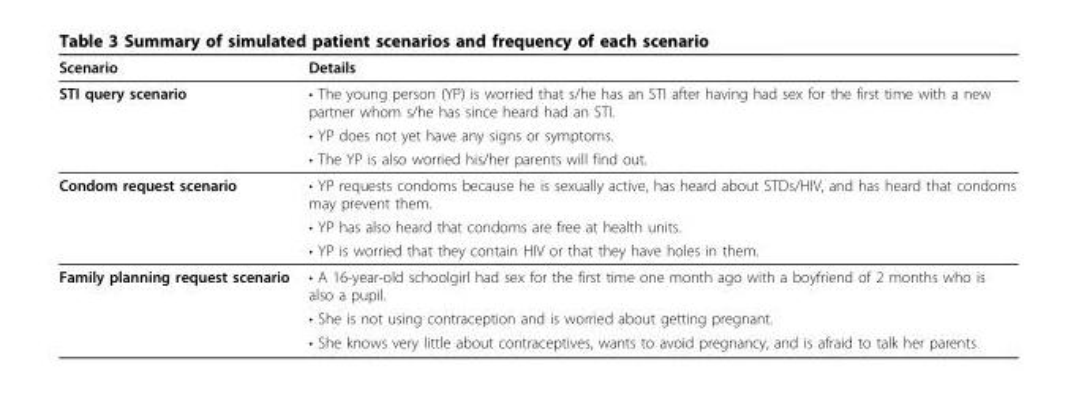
<table><thead><tr><td>Scenario</td><td>Details</td></tr></thead><tbody><tr><td rowspan="3">STI query scenario</td><td>• The young person (YP) is worried that s/he has an STI after having had sex for the first time with a new partner whom s/he has since heard had an STI.</td></tr><tr><td>• YP does not yet have any signs or symptoms.</td></tr><tr><td>• The YP is also worried his/her parents will find out.</td></tr><tr><td rowspan="3">Condom request scenario</td><td>• YP requests condoms because he is sexually active, has heard about STDs/HIV, and has heard that condoms may prevent them.</td></tr><tr><td>• YP has also heard that condoms are free at health units.</td></tr><tr><td>• YP is worried that they contain HIV or that they have holes in them.</td></tr><tr><td rowspan="3">Family planning request scenario</td><td>• A 16-year-old schoolgirl had sex for the first time one month ago with a boyfriend of 2 months who is also a pupil.</td></tr><tr><td>• She is not using contraception and is worried about getting pregnant.</td></tr><tr><td>• She knows very little about contraceptives, wants to avoid pregnancy, and is afraid to talk her parents</td></tr></tbody></table>